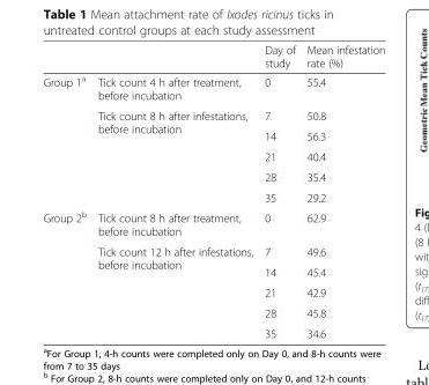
<table><thead><tr><td></td><td></td><td>Day of study</td><td>Mean infestation rate (%)</td></tr></thead><tbody><tr><td rowspan="6">Group 1<sup>a</sup></td><td>Tick count 4 h after treatment, before incubation</td><td>0</td><td>55.4</td></tr><tr><td rowspan="5">Tick count 8 h after infestations, before incubation</td><td>7</td><td>50.8</td></tr><tr><td>14</td><td>56.3</td></tr><tr><td>21</td><td>40.4</td></tr><tr><td>28</td><td>35.4</td></tr><tr><td>35</td><td>29.2</td></tr><tr><td rowspan="6">Group 2<sup>b</sup></td><td>Tick count 8 h after treatment, before incubation</td><td>0</td><td>62.9</td></tr><tr><td rowspan="5">Tick count 12 h after infestations, before incubation</td><td>7</td><td>49.6</td></tr><tr><td>14</td><td>45.4</td></tr><tr><td>21</td><td>42.9</td></tr><tr><td>28</td><td>45.8</td></tr><tr><td>35</td><td>34.6</td></tr></tbody></table>